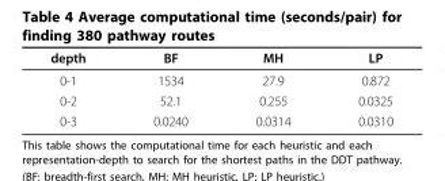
<table><thead><tr><td>depth</td><td>BF</td><td>MH</td><td>LP</td></tr></thead><tbody><tr><td>0-1</td><td>1534</td><td>27.9</td><td>0.872</td></tr><tr><td>0-2</td><td>52.1</td><td>0.255</td><td>0.0325</td></tr><tr><td>0-3</td><td>0.0240</td><td>0.0314</td><td>0.0310</td></tr></tbody></table>